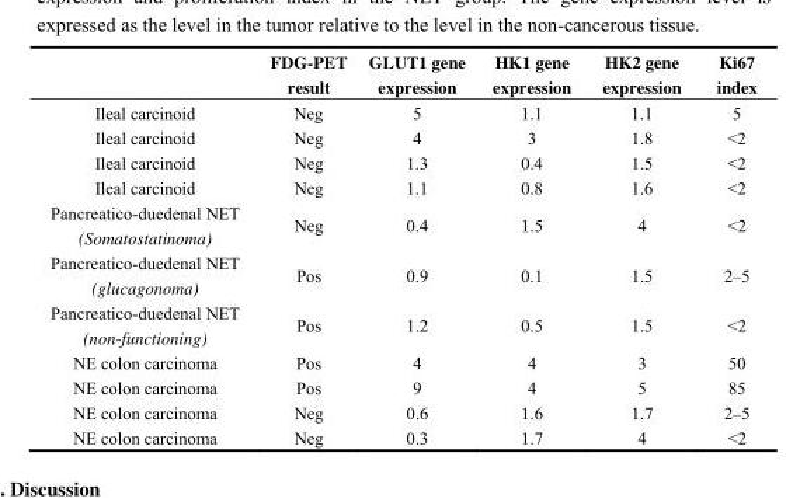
<table><thead><tr><td></td><td>FDG-PET result</td><td>GLUT1 gene expression</td><td>HK1 gene expression</td><td>HK2 gene expression</td><td>Ki67 index</td></tr></thead><tbody><tr><td>Ileal carcinoid</td><td>Neg</td><td>5</td><td>1.1</td><td>1.1</td><td>5</td></tr><tr><td>Ileal carcinoid</td><td>Neg</td><td>4</td><td>3</td><td>1.8</td><td>&lt;2</td></tr><tr><td>Ileal carcinoid</td><td>Neg</td><td>1.3</td><td>0.4</td><td>1.5</td><td>&lt;2</td></tr><tr><td>Ileal carcinoid</td><td>Neg</td><td>1.1</td><td>0.8</td><td>1.6</td><td>&lt;2</td></tr><tr><td>Pancreatico-duedenal NET (Somatostatinoma)</td><td>Neg</td><td>0.4</td><td>1.5</td><td>4</td><td>&lt;2</td></tr><tr><td>Pancreatico-duedenal NET (glucagonoma)</td><td>Pos</td><td>0.9</td><td>0.1</td><td>1.5</td><td>2–5</td></tr><tr><td>Pancreatico-duedenal NET (non-functioning)</td><td>Pos</td><td>1.2</td><td>0.5</td><td>1.5</td><td>&lt;2</td></tr><tr><td>NE colon carcinoma</td><td>Pos</td><td>4</td><td>4</td><td>3</td><td>50</td></tr><tr><td>NE colon carcinoma</td><td>Pos</td><td>9</td><td>4</td><td>5</td><td>85</td></tr><tr><td>NE colon carcinoma</td><td>Neg</td><td>0.6</td><td>1.6</td><td>1.7</td><td>2–5</td></tr><tr><td>NE colon carcinoma</td><td>Neg</td><td>0.3</td><td>1.7</td><td>4</td><td>&lt;2</td></tr></tbody></table>